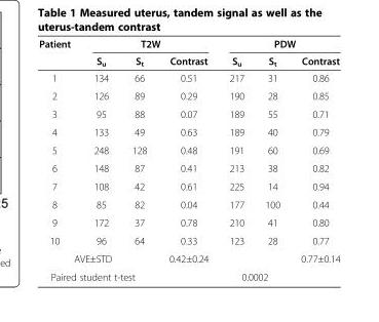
<table><thead><tr><td rowspan="2">Patient</td><td colspan="3">T2W</td><td colspan="3">PDW</td></tr><tr><td>S<sub>u</sub></td><td>S<sub>t</sub></td><td>Contrast</td><td>S<sub>u</sub></td><td>S<sub>t</sub></td><td>Contrast</td></tr></thead><tbody><tr><td>1</td><td>134</td><td>66</td><td>0.51</td><td>217</td><td>31</td><td>0.86</td></tr><tr><td>2</td><td>126</td><td>89</td><td>0.29</td><td>190</td><td>28</td><td>0.85</td></tr><tr><td>3</td><td>95</td><td>88</td><td>0.07</td><td>189</td><td>55</td><td>0.71</td></tr><tr><td>4</td><td>133</td><td>49</td><td>0.63</td><td>189</td><td>40</td><td>0.79</td></tr><tr><td>5</td><td>248</td><td>128</td><td>0.48</td><td>191</td><td>60</td><td>0.69</td></tr><tr><td>6</td><td>148</td><td>87</td><td>0.41</td><td>213</td><td>38</td><td>0.82</td></tr><tr><td>7</td><td>108</td><td>42</td><td>0.61</td><td>225</td><td>14</td><td>0.94</td></tr><tr><td>8</td><td>85</td><td>82</td><td>0.04</td><td>177</td><td>100</td><td>0.44</td></tr><tr><td>9</td><td>172</td><td>37</td><td>0.78</td><td>210</td><td>41</td><td>0.80</td></tr><tr><td>10</td><td>96</td><td>64</td><td>0.33</td><td>123</td><td>28</td><td>0.77</td></tr><tr><td colspan="3">AVE±STD</td><td>0.42±0.24</td><td colspan="2"></td><td>0.77±0.14</td></tr><tr><td colspan="3">Paired student t-test</td><td colspan="4">0.0002</td></tr></tbody></table>